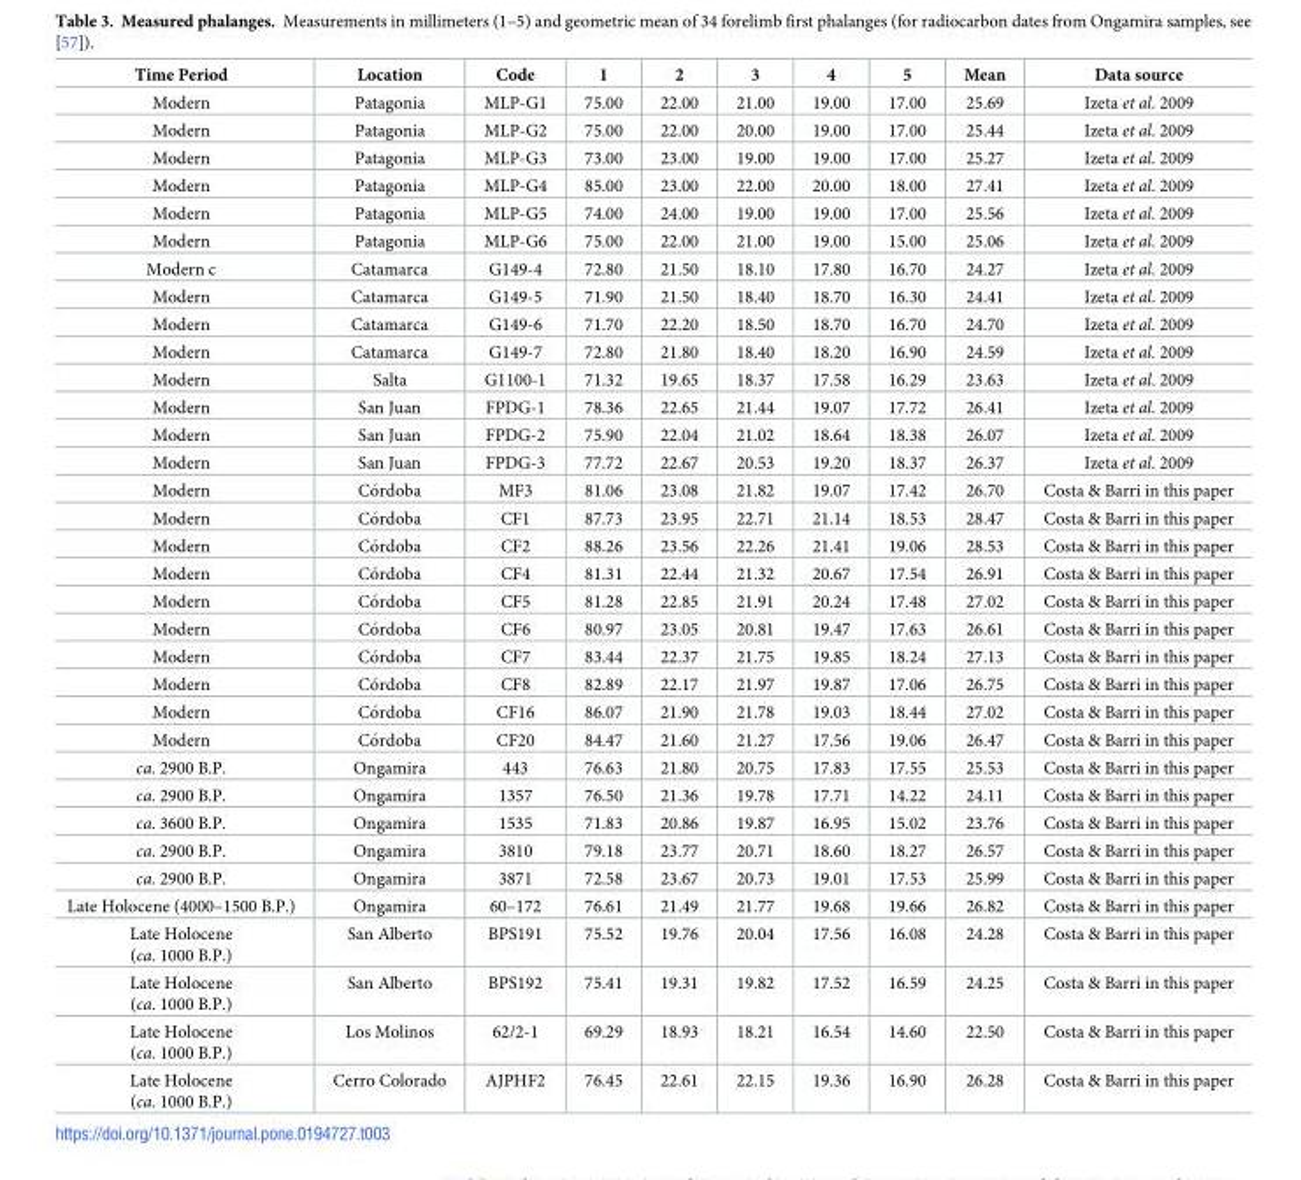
<table><thead><tr><td>Time Period</td><td>Location</td><td>Code</td><td>1</td><td>2</td><td>3</td><td>4</td><td>5</td><td>Mean</td><td>Data source</td></tr></thead><tbody><tr><td>Modern</td><td>Patagonia</td><td>MLP-G1</td><td>75.00</td><td>22.00</td><td>21.00</td><td>19.00</td><td>17.00</td><td>25.69</td><td>Izeta et al. 2009</td></tr><tr><td>Modern</td><td>Patagonia</td><td>MLP-G2</td><td>75.00</td><td>22.00</td><td>20.00</td><td>19.00</td><td>17.00</td><td>25.44</td><td>Izeta et al. 2009</td></tr><tr><td>Modern</td><td>Patagonia</td><td>MLP-G3</td><td>73.00</td><td>23.00</td><td>19.00</td><td>19.00</td><td>17.00</td><td>25.27</td><td>Izeta et al. 2009</td></tr><tr><td>Modern</td><td>Patagonia</td><td>MLP-G4</td><td>85.00</td><td>23.00</td><td>22.00</td><td>20.00</td><td>18.00</td><td>27.41</td><td>Izeta et al. 2009</td></tr><tr><td>Modern</td><td>Patagonia</td><td>MLP-G5</td><td>74.00</td><td>24.00</td><td>19.00</td><td>19.00</td><td>17.00</td><td>25.56</td><td>Izeta et al. 2009</td></tr><tr><td>Modern</td><td>Patagonia</td><td>MLP-G6</td><td>75.00</td><td>22.00</td><td>21.00</td><td>19.00</td><td>15.00</td><td>25.06</td><td>Izeta et al. 2009</td></tr><tr><td>Modern c</td><td>Catamarca</td><td>G149-4</td><td>72.80</td><td>21.50</td><td>18.10</td><td>17.80</td><td>16.70</td><td>24.27</td><td>Izeta et al. 2009</td></tr><tr><td>Modern</td><td>Catamarca</td><td>G149-5</td><td>71.90</td><td>21.50</td><td>18.40</td><td>18.70</td><td>16.30</td><td>24.41</td><td>Izeta et al. 2009</td></tr><tr><td>Modern</td><td>Catamarca</td><td>G149-6</td><td>71.70</td><td>22.20</td><td>18.50</td><td>18.70</td><td>16.70</td><td>24.70</td><td>Izeta et al. 2009</td></tr><tr><td>Modern</td><td>Catamarca</td><td>G149-7</td><td>72.80</td><td>21.80</td><td>18.40</td><td>18.20</td><td>16.90</td><td>24.59</td><td>Izeta et al. 2009</td></tr><tr><td>Modern</td><td>Salta</td><td>G1100-1</td><td>71.32</td><td>19.65</td><td>18.37</td><td>17.58</td><td>16.29</td><td>23.63</td><td>Izeta et al. 2009</td></tr><tr><td>Modern</td><td>San Juan</td><td>FPDG-1</td><td>78.36</td><td>22.65</td><td>21.44</td><td>19.07</td><td>17.72</td><td>26.41</td><td>Izeta et al. 2009</td></tr><tr><td>Modern</td><td>San Juan</td><td>FPDG-2</td><td>75.90</td><td>22.04</td><td>21.02</td><td>18.64</td><td>18.38</td><td>26.07</td><td>Izeta et al. 2009</td></tr><tr><td>Modern</td><td>San Juan</td><td>FPDG-3</td><td>77.72</td><td>22.67</td><td>20.53</td><td>19.20</td><td>18.37</td><td>26.37</td><td>Izeta et al. 2009</td></tr><tr><td>Modern</td><td>Co´rdoba</td><td>MF3</td><td>81.06</td><td>23.08</td><td>21.82</td><td>19.07</td><td>17.42</td><td>26.70</td><td>Costa &amp; Barri in this paper</td></tr><tr><td>Modern</td><td>Co´rdoba</td><td>CF1</td><td>87.73</td><td>23.95</td><td>22.71</td><td>21.14</td><td>18.53</td><td>28.47</td><td>Costa &amp; Barri in this paper</td></tr><tr><td>Modern</td><td>Co´rdoba</td><td>CF2</td><td>88.26</td><td>23.56</td><td>22.26</td><td>21.41</td><td>19.06</td><td>28.53</td><td>Costa &amp; Barri in this paper</td></tr><tr><td>Modern</td><td>Co´rdoba</td><td>CF4</td><td>81.31</td><td>22.44</td><td>21.32</td><td>20.67</td><td>17.54</td><td>26.91</td><td>Costa &amp; Barri in this paper</td></tr><tr><td>Modern</td><td>Co´rdoba</td><td>CF5</td><td>81.28</td><td>22.85</td><td>21.91</td><td>20.24</td><td>17.48</td><td>27.02</td><td>Costa &amp; Barri in this paper</td></tr><tr><td>Modern</td><td>Co´rdoba</td><td>CF6</td><td>80.97</td><td>23.05</td><td>20.81</td><td>19.47</td><td>17.63</td><td>26.61</td><td>Costa &amp; Barri in this paper</td></tr><tr><td>Modern</td><td>Co´rdoba</td><td>CF7</td><td>83.44</td><td>22.37</td><td>21.75</td><td>19.85</td><td>18.24</td><td>27.13</td><td>Costa &amp; Barri in this paper</td></tr><tr><td>Modern</td><td>Co´rdoba</td><td>CF8</td><td>82.89</td><td>22.17</td><td>21.97</td><td>19.87</td><td>17.06</td><td>26.75</td><td>Costa &amp; Barri in this paper</td></tr><tr><td>Modern</td><td>Co´rdoba</td><td>CF16</td><td>86.07</td><td>21.90</td><td>21.78</td><td>19.03</td><td>18.44</td><td>27.02</td><td>Costa &amp; Barri in this paper</td></tr><tr><td>Modern</td><td>Co´rdoba</td><td>CF20</td><td>84.47</td><td>21.60</td><td>21.27</td><td>17.56</td><td>19.06</td><td>26.47</td><td>Costa &amp; Barri in this paper</td></tr><tr><td>ca. 2900 B.P.</td><td>Ongamira</td><td>443</td><td>76.63</td><td>21.80</td><td>20.75</td><td>17.83</td><td>17.55</td><td>25.53</td><td>Costa &amp; Barri in this paper</td></tr><tr><td>ca. 2900 B.P.</td><td>Ongamira</td><td>1357</td><td>76.50</td><td>21.36</td><td>19.78</td><td>17.71</td><td>14.22</td><td>24.11</td><td>Costa &amp; Barri in this paper</td></tr><tr><td>ca. 3600 B.P.</td><td>Ongamira</td><td>1535</td><td>71.83</td><td>20.86</td><td>19.87</td><td>16.95</td><td>15.02</td><td>23.76</td><td>Costa &amp; Barri in this paper</td></tr><tr><td>ca. 2900 B.P.</td><td>Ongamira</td><td>3810</td><td>79.18</td><td>23.77</td><td>20.71</td><td>18.60</td><td>18.27</td><td>26.57</td><td>Costa &amp; Barri in this paper</td></tr><tr><td>ca. 2900 B.P.</td><td>Ongamira</td><td>3871</td><td>72.58</td><td>23.67</td><td>20.73</td><td>19.01</td><td>17.53</td><td>25.99</td><td>Costa &amp; Barri in this paper</td></tr><tr><td>Late Holocene (4000–1500 B.P.)</td><td>Ongamira</td><td>60–172</td><td>76.61</td><td>21.49</td><td>21.77</td><td>19.68</td><td>19.66</td><td>26.82</td><td>Costa &amp; Barri in this paper</td></tr><tr><td>Late Holocene (ca. 1000 B.P.)</td><td>San Alberto</td><td>BPS191</td><td>75.52</td><td>19.76</td><td>20.04</td><td>17.56</td><td>16.08</td><td>24.28</td><td>Costa &amp; Barri in this paper</td></tr><tr><td>Late Holocene (ca. 1000 B.P.)</td><td>San Alberto</td><td>BPS192</td><td>75.41</td><td>19.31</td><td>19.82</td><td>17.52</td><td>16.59</td><td>24.25</td><td>Costa &amp; Barri in this paper</td></tr><tr><td>Late Holocene (ca. 1000 B.P.)</td><td>Los Molinos</td><td>62/2-1</td><td>69.29</td><td>18.93</td><td>18.21</td><td>16.54</td><td>14.60</td><td>22.50</td><td>Costa &amp; Barri in this paper</td></tr><tr><td>Late Holocene (ca. 1000 B.P.)</td><td>Cerro Colorado</td><td>AJPHF2</td><td>76.45</td><td>22.61</td><td>22.15</td><td>19.36</td><td>16.90</td><td>26.28</td><td>Costa &amp; Barri in this paper</td></tr></tbody></table>